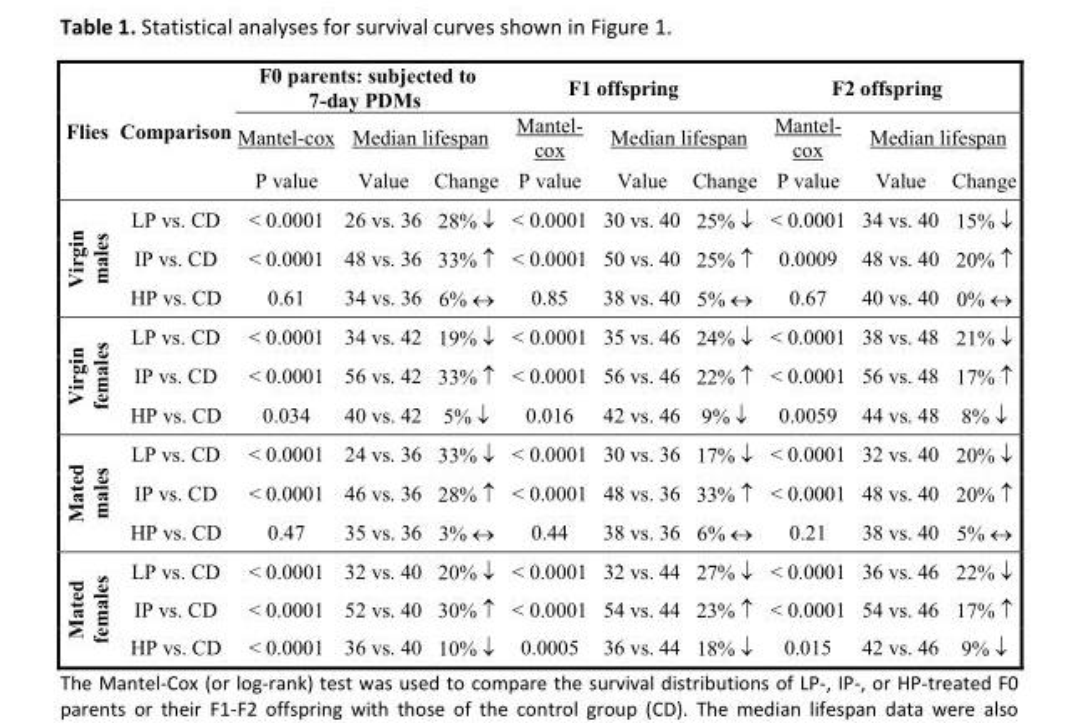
<table><thead><tr><td rowspan="3">Flies</td><td rowspan="3">Comparison</td><td colspan="3">F0 parents: subjected to 7-day PDMs</td><td colspan="3">F1 offspring</td><td colspan="3">F2 offspring</td></tr><tr><td rowspan="2">Mantel-cox P value</td><td colspan="2">Median lifespan</td><td rowspan="2">Mantel- cox P value</td><td colspan="2">Median lifespan</td><td rowspan="2">Mantel- cox P value</td><td colspan="2">Median lifespan</td></tr><tr><td>Value</td><td>Change</td><td>Value</td><td>Change</td><td>Value</td><td>Change</td></tr></thead><tbody><tr><td rowspan="3">Virgin males</td><td>LP vs. CD</td><td>&lt; 0.0001</td><td>26 vs. 36</td><td>28% ↓</td><td>&lt; 0.0001</td><td>30 vs. 40</td><td>25% ↓</td><td>&lt; 0.0001</td><td>34 vs. 40</td><td>15% ↓</td></tr><tr><td>IP vs. CD</td><td>&lt; 0.0001</td><td>48 vs. 36</td><td>33% ↑</td><td>&lt; 0.0001</td><td>50 vs. 40</td><td>25% ↑</td><td>0.0009</td><td>48 vs. 40</td><td>20% ↑</td></tr><tr><td>HP vs. CD</td><td>0.61</td><td>34 vs. 36</td><td>6% ↔</td><td>0.85</td><td>38 vs. 40</td><td>5% ↔</td><td>0.67</td><td>40 vs. 40</td><td>0% ↔</td></tr><tr><td rowspan="3">Virgin females</td><td>LP vs. CD</td><td>&lt; 0.0001</td><td>34 vs. 42</td><td>19% ↓</td><td>&lt; 0.0001</td><td>35 vs. 46</td><td>24% ↓</td><td>&lt; 0.0001</td><td>38 vs. 48</td><td>21% ↓</td></tr><tr><td>IP vs. CD</td><td>&lt; 0.0001</td><td>56 vs. 42</td><td>33% ↑</td><td>&lt; 0.0001</td><td>56 vs. 46</td><td>22% ↑</td><td>&lt; 0.0001</td><td>56 vs. 48</td><td>17% ↑</td></tr><tr><td>HP vs. CD</td><td>0.034</td><td>40 vs. 42</td><td>5% ↓</td><td>0.016</td><td>42 vs. 46</td><td>9% ↓</td><td>0.0059</td><td>44 vs. 48</td><td>8% ↓</td></tr><tr><td rowspan="3">Mated males</td><td>LP vs. CD</td><td>&lt; 0.0001</td><td>24 vs. 36</td><td>33% ↓</td><td>&lt; 0.0001</td><td>30 vs. 36</td><td>17% ↓</td><td>&lt; 0.0001</td><td>32 vs. 40</td><td>20% ↓</td></tr><tr><td>IP vs. CD</td><td>&lt; 0.0001</td><td>46 vs. 36</td><td>28% ↑</td><td>&lt; 0.0001</td><td>48 vs. 36</td><td>33% ↑</td><td>&lt; 0.0001</td><td>48 vs. 40</td><td>20% ↑</td></tr><tr><td>HP vs. CD</td><td>0.47</td><td>35 vs. 36</td><td>3% ↔</td><td>0.44</td><td>38 vs. 36</td><td>6% ↔</td><td>0.21</td><td>38 vs. 40</td><td>5% ↔</td></tr><tr><td rowspan="3">Mated females</td><td>LP vs. CD</td><td>&lt; 0.0001</td><td>32 vs. 40</td><td>20% ↓</td><td>&lt; 0.0001</td><td>32 vs. 44</td><td>27% ↓</td><td>&lt; 0.0001</td><td>36 vs. 46</td><td>22% ↓</td></tr><tr><td>IP vs. CD</td><td>&lt; 0.0001</td><td>52 vs. 40</td><td>30% ↑</td><td>&lt; 0.0001</td><td>54 vs. 44</td><td>23% ↑</td><td>&lt; 0.0001</td><td>54 vs. 46</td><td>17% ↑</td></tr><tr><td>HP vs. CD</td><td>&lt; 0.0001</td><td>36 vs. 40</td><td>10% ↓</td><td>0.0005</td><td>36 vs. 44</td><td>18% ↓</td><td>0.015</td><td>42 vs. 46</td><td>9% ↓</td></tr></tbody></table>